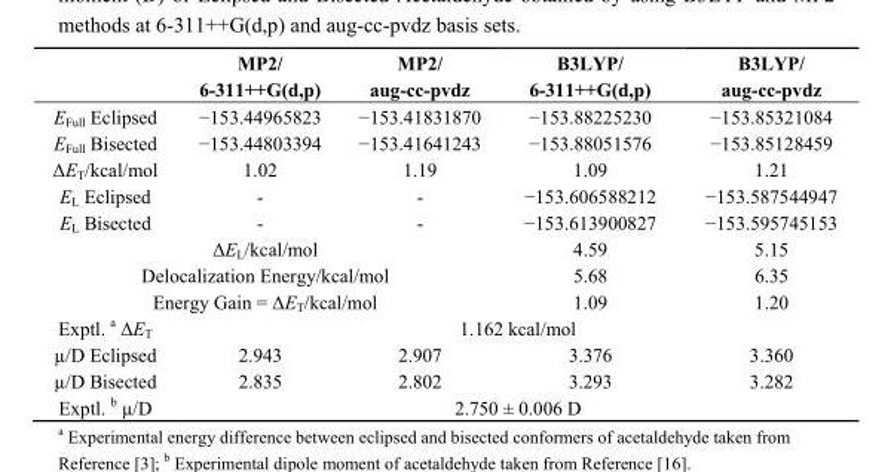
<table><thead><tr><td></td><td>MP2/ 6-311++G(d,p)</td><td>MP2/ aug-cc-pvdz</td><td>B3LYP/ 6-311++G(d,p)</td><td>B3LYP/ aug-cc-pvdz</td></tr></thead><tbody><tr><td>E<sub>Full</sub> Eclipsed</td><td>−153.44965823</td><td>−153.41831870</td><td>−153.88225230</td><td>−153.85321084</td></tr><tr><td>E<sub>Full</sub> Bisected</td><td>−153.44803394</td><td>−153.41641243</td><td>−153.88051576</td><td>−153.85128459</td></tr><tr><td>ΔE<sub>T</sub>/kcal/mol</td><td>1.02</td><td>1.19</td><td>1.09</td><td>1.21</td></tr><tr><td>E<sub>L</sub> Eclipsed</td><td>-</td><td>-</td><td>−153.606588212</td><td>−153.587544947</td></tr><tr><td>E<sub>L</sub> Bisected</td><td>-</td><td>-</td><td>−153.613900827</td><td>−153.595745153</td></tr><tr><td colspan="3">ΔE<sub>L</sub>/kcal/mol</td><td>4.59</td><td>5.15</td></tr><tr><td colspan="3">Delocalization Energy/kcal/mol</td><td>5.68</td><td>6.35</td></tr><tr><td colspan="3">Energy Gain = ΔE<sub>T</sub>/kcal/mol</td><td>1.09</td><td>1.20</td></tr><tr><td>Exptl. a ΔE<sub>T</sub></td><td></td><td colspan="2">1.162 kcal/mol</td><td></td></tr><tr><td>µ/D Eclipsed</td><td>2.943</td><td>2.907</td><td>3.376</td><td>3.360</td></tr><tr><td>µ/D Bisected</td><td>2.835</td><td>2.802</td><td>3.293</td><td>3.282</td></tr><tr><td>Exptl. b µ/D</td><td></td><td colspan="2">2.750 ± 0.006 D</td><td></td></tr></tbody></table>